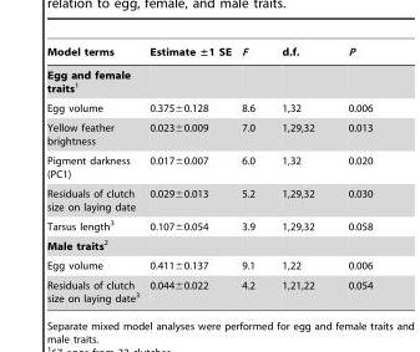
<table><thead><tr><td>Model terms</td><td>Estimate ±1 SE</td><td>F</td><td>d.f.</td><td>P</td></tr></thead><tbody><tr><td colspan="5">Egg and female traits1</td></tr><tr><td>Egg volume</td><td>0.375±0.128</td><td>8.6</td><td>1,32</td><td>0.006</td></tr><tr><td>Yellow feather brightness</td><td>0.023±0.009</td><td>7.0</td><td>1,29,32</td><td>0.013</td></tr><tr><td>Pigment darkness (PC1)</td><td>0.017±0.007</td><td>6.0</td><td>1,32</td><td>0.020</td></tr><tr><td>Residuals of clutch size on laying date</td><td>0.029±0.013</td><td>5.2</td><td>1,29,32</td><td>0.030</td></tr><tr><td>Tarsus length<sup>3</sup></td><td>0.107±0.054</td><td>3.9</td><td>1,29,32</td><td>0.058</td></tr><tr><td colspan="5">Male traits2</td></tr><tr><td>Egg volume</td><td>0.411±0.137</td><td>9.1</td><td>1,22</td><td>0.006</td></tr><tr><td>Residuals of clutch size on laying date<sup>3</sup></td><td>0.044±0.022</td><td>4.2</td><td>1,21,22</td><td>0.054</td></tr></tbody></table>